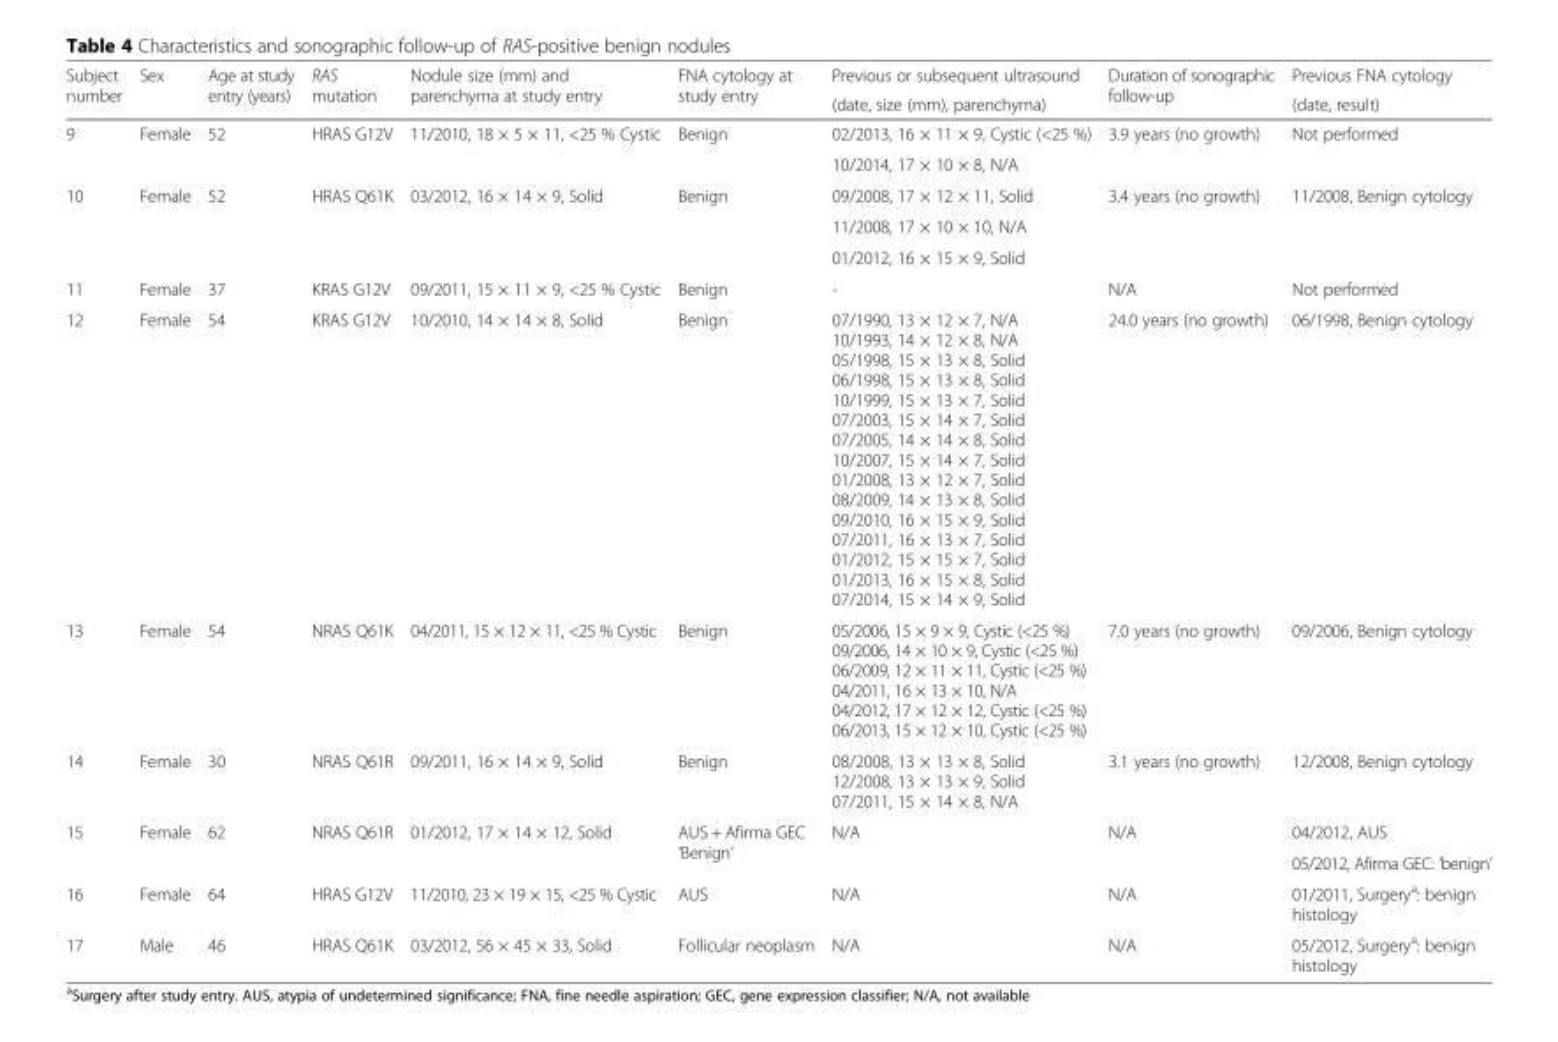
<table><thead><tr><td rowspan="2">Subject number</td><td rowspan="2">Sex</td><td rowspan="2">Age at study entry (years)</td><td rowspan="2">RAS mutation</td><td rowspan="2">Nodule size (mm) and parenchyma at study entry</td><td rowspan="2">FNA cytology at study entry</td><td rowspan="2">Previous or subsequent ultrasound (date, size (mm), parenchyma)</td><td rowspan="2">Duration of sonographic follow-up</td><td rowspan="2">Previous FNA cytology (date, result)</td></tr><tr></tr></thead><tbody><tr><td rowspan="2">9</td><td rowspan="2">Female</td><td rowspan="2">52</td><td rowspan="2">HRAS G12V</td><td rowspan="2">11/2010, 18 × 5 × 11, &lt;25 % Cystic</td><td rowspan="2">Benign</td><td>02/2013, 16 × 11 × 9, Cystic (&lt;25 %)</td><td>3.9 years (no growth)</td><td rowspan="2">Not performed</td></tr><tr><td>10/2014, 17 × 10 × 8, N/A</td><td></td></tr><tr><td rowspan="3">10</td><td rowspan="3">Female</td><td rowspan="3">52</td><td rowspan="3">HRAS Q61K</td><td rowspan="3">03/2012, 16 × 14 × 9, Solid</td><td rowspan="3">Benign</td><td>09/2008, 17 × 12 × 11, Solid</td><td>3.4 years (no growth)</td><td rowspan="3">11/2008, Benign cytology</td></tr><tr><td>11/2008, 17 × 10 × 10, N/A</td><td rowspan="2"></td></tr><tr><td>01/2012, 16 × 15 × 9, Solid</td></tr><tr><td>11</td><td>Female</td><td>37</td><td>KRAS G12V</td><td>09/2011, 15 × 11 × 9, &lt;25 % Cystic</td><td>Benign</td><td>-</td><td>N/A</td><td>Not performed</td></tr><tr><td>12</td><td>Female</td><td>54</td><td>KRAS G12V</td><td>10/2010, 14 × 14 × 8, Solid</td><td>Benign</td><td>07/1990, 13 × 12 × 7, N/A 10/1993, 14 × 12 × 8, N/A 05/1998, 15 × 13 × 8, Solid 06/1998, 15 × 13 × 8, Solid 10/1999, 15 × 13 × 7, Solid 07/2003, 15 × 14 × 7, Solid 07/2005, 14 × 14 × 8, Solid 10/2007, 15 × 14 × 7, Solid 01/2008, 13 × 12 × 7, Solid 08/2009, 14 × 13 × 8, Solid 09/2010, 16 × 15 × 9, Solid 07/2011, 16 × 13 × 7, Solid 01/2012, 15 × 15 × 7, Solid 01/2013, 16 × 15 × 8, Solid 07/2014, 15 × 14 × 9, Solid</td><td>24.0 years (no growth)</td><td>06/1998, Benign cytology</td></tr><tr><td>13</td><td>Female</td><td>54</td><td>NRAS Q61K</td><td>04/2011, 15 × 12 × 11, &lt;25 % Cystic</td><td>Benign</td><td>05/2006, 15 × 9 × 9, Cystic (&lt;25 %) 09/2006, 14 × 10 × 9, Cystic (&lt;25 %) 06/2009, 12 × 11 × 11, Cystic (&lt;25 %) 04/2011, 16 × 13 × 10, N/A 04/2012, 17 × 12 × 12, Cystic (&lt;25 %) 06/2013, 15 × 12 × 10, Cystic (&lt;25 %)</td><td>7.0 years (no growth)</td><td>09/2006, Benign cytology</td></tr><tr><td>14</td><td>Female</td><td>30</td><td>NRAS Q61R</td><td>09/2011, 16 × 14 × 9, Solid</td><td>Benign</td><td>08/2008, 13 × 13 × 8, Solid 12/2008, 13 × 13 × 9, Solid 07/2011, 15 × 14 × 8, N/A</td><td>3.1 years (no growth)</td><td>12/2008, Benign cytology</td></tr><tr><td rowspan="2">15</td><td rowspan="2">Female</td><td rowspan="2">62</td><td rowspan="2">NRAS Q61R</td><td rowspan="2">01/2012, 17 × 14 × 12, Solid</td><td rowspan="2">AUS + Afirma GEC ‘Benign’</td><td rowspan="2">N/A</td><td rowspan="2">N/A</td><td>04/2012, AUS</td></tr><tr><td>05/2012, Afirma GEC: ‘benign’</td></tr><tr><td>16</td><td>Female</td><td>64</td><td>HRAS G12V</td><td>11/2010, 23 × 19 × 15, &lt;25 % Cystic</td><td>AUS</td><td>N/A</td><td>N/A</td><td>01/2011, Surgery<sup>a</sup>: benign histology</td></tr><tr><td>17</td><td>Male</td><td>46</td><td>HRAS Q61K</td><td>03/2012, 56 × 45 × 33, Solid</td><td>Follicular neoplasm</td><td>N/A</td><td>N/A</td><td>05/2012, Surgery<sup>a</sup>: benign histology</td></tr></tbody></table>